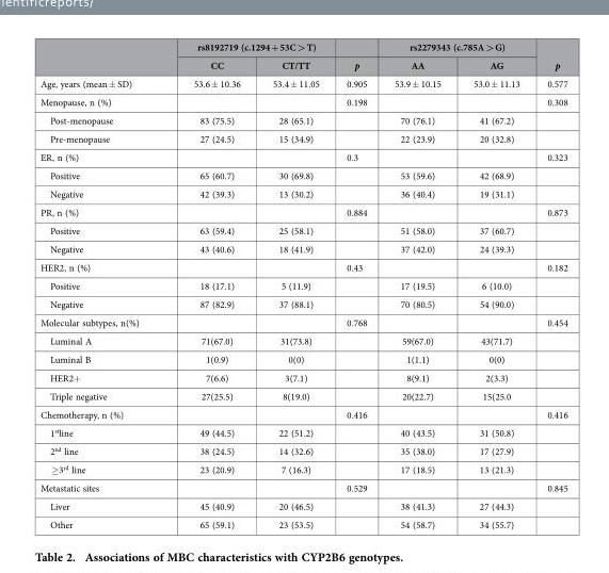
<table><thead><tr><td rowspan="2"></td><td colspan="2">rs8192719 (c.1294 + 53C &gt; T)</td><td rowspan="2">p</td><td colspan="2">rs2279343 (c.785A &gt; G)</td><td rowspan="2">p</td></tr><tr><td>CC</td><td>CT/TT</td><td>AA</td><td>AG</td></tr></thead><tbody><tr><td>Age, years (mean ± SD)</td><td>53.6 ± 10.36</td><td>53.4 ± 11.05</td><td>0.905</td><td>53.9 ± 10.15</td><td>53.0 ± 11.13</td><td>0.577</td></tr><tr><td>Menopause, n (%)</td><td></td><td></td><td>0.198</td><td></td><td></td><td>0.308</td></tr><tr><td>Post-menopause</td><td>83 (75.5)</td><td>28 (65.1)</td><td></td><td>70 (76.1)</td><td>41 (67.2)</td><td></td></tr><tr><td>Pre-menopause</td><td>27 (24.5)</td><td>15 (34.9)</td><td></td><td>22 (23.9)</td><td>20 (32.8)</td><td></td></tr><tr><td>ER, n (%)</td><td></td><td></td><td>0.3</td><td></td><td></td><td>0.323</td></tr><tr><td>Positive</td><td>65 (60.7)</td><td>30 (69.8)</td><td></td><td>53 (59.6)</td><td>42 (68.9)</td><td></td></tr><tr><td>Negative</td><td>42 (39.3)</td><td>13 (30.2)</td><td></td><td>36 (40.4)</td><td>19 (31.1)</td><td></td></tr><tr><td>PR, n (%)</td><td></td><td></td><td>0.884</td><td></td><td></td><td>0.873</td></tr><tr><td>Positive</td><td>63 (59.4)</td><td>25 (58.1)</td><td></td><td>51 (58.0)</td><td>37 (60.7)</td><td></td></tr><tr><td>Negative</td><td>43 (40.6)</td><td>18 (41.9)</td><td></td><td>37 (42.0)</td><td>24 (39.3)</td><td></td></tr><tr><td>HER2, n (%)</td><td></td><td></td><td>0.43</td><td></td><td></td><td>0.182</td></tr><tr><td>Positive</td><td>18 (17.1)</td><td>5 (11.9)</td><td></td><td>17 (19.5)</td><td>6 (10.0)</td><td></td></tr><tr><td>Negative</td><td>87 (82.9)</td><td>37 (88.1)</td><td></td><td>70 (80.5)</td><td>54 (90.0)</td><td></td></tr><tr><td>Molecular subtypes, n(%)</td><td></td><td></td><td>0.768</td><td></td><td></td><td>0.454</td></tr><tr><td>Luminal A</td><td>71(67.0)</td><td>31(73.8)</td><td></td><td>59(67.0)</td><td>43(71.7)</td><td></td></tr><tr><td>Luminal B</td><td>1(0.9)</td><td>0(0)</td><td></td><td>1(1.1)</td><td>0(0)</td><td></td></tr><tr><td>HER2+</td><td>7(6.6)</td><td>3(7.1)</td><td></td><td>8(9.1)</td><td>2(3.3)</td><td></td></tr><tr><td>Triple negative</td><td>27(25.5)</td><td>8(19.0)</td><td></td><td>20(22.7)</td><td>15(25.0</td><td></td></tr><tr><td>Chemotherapy, n (%)</td><td></td><td></td><td>0.416</td><td></td><td></td><td>0.416</td></tr><tr><td>1<sup>st</sup>line</td><td>49 (44.5)</td><td>22 (51.2)</td><td></td><td>40 (43.5)</td><td>31 (50.8)</td><td></td></tr><tr><td>2<sup>nd</sup> line</td><td>38 (24.5)</td><td>14 (32.6)</td><td></td><td>35 (38.0)</td><td>17 (27.9)</td><td></td></tr><tr><td>≥3<sup>rd</sup> line</td><td>23 (20.9)</td><td>7 (16.3)</td><td></td><td>17 (18.5)</td><td>13 (21.3)</td><td></td></tr><tr><td>Metastatic sites</td><td></td><td></td><td>0.529</td><td></td><td></td><td>0.845</td></tr><tr><td>Liver</td><td>45 (40.9)</td><td>20 (46.5)</td><td></td><td>38 (41.3)</td><td>27 (44.3)</td><td></td></tr><tr><td>Other</td><td>65 (59.1)</td><td>23 (53.5)</td><td></td><td>54 (58.7)</td><td>34 (55.7)</td><td></td></tr></tbody></table>